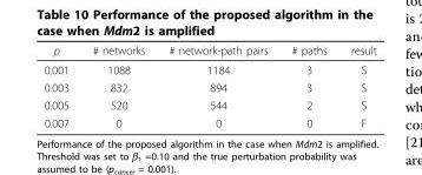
<table><thead><tr><td>p</td><td># networks</td><td># network-path pairs</td><td># paths</td><td>result</td></tr></thead><tbody><tr><td>0.001</td><td>1088</td><td>1184</td><td>3</td><td>S</td></tr><tr><td>0.003</td><td>832</td><td>894</td><td>3</td><td>S</td></tr><tr><td>0.005</td><td>520</td><td>544</td><td>2</td><td>S</td></tr><tr><td>0.007</td><td>0</td><td>0</td><td>0</td><td>F</td></tr></tbody></table>